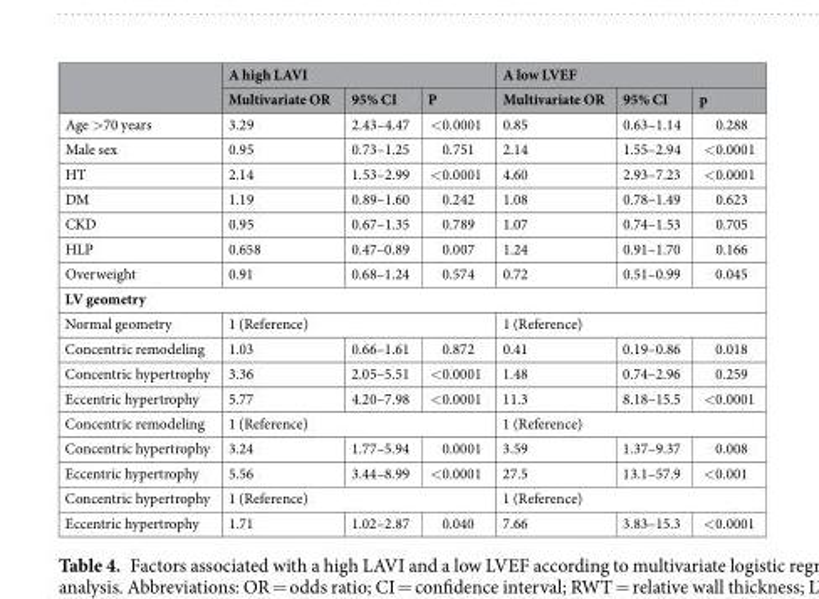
<table><thead><tr><td rowspan="2"></td><td colspan="3">A high LAVI</td><td colspan="3">A low LVEF</td></tr><tr><td>Multivariate OR</td><td>95% CI</td><td>P</td><td>Multivariate OR</td><td>95% CI</td><td>p</td></tr></thead><tbody><tr><td>Age &gt;70 years</td><td>3.29</td><td>2.43–4.47</td><td>&lt;0.0001</td><td>0.85</td><td>0.63–1.14</td><td>0.288</td></tr><tr><td>Male sex</td><td>0.95</td><td>0.73–1.25</td><td>0.751</td><td>2.14</td><td>1.55–2.94</td><td>&lt;0.0001</td></tr><tr><td>HT</td><td>2.14</td><td>1.53–2.99</td><td>&lt;0.0001</td><td>4.60</td><td>2.93–7.23</td><td>&lt;0.0001</td></tr><tr><td>DM</td><td>1.19</td><td>0.89–1.60</td><td>0.242</td><td>1.08</td><td>0.78–1.49</td><td>0.623</td></tr><tr><td>CKD</td><td>0.95</td><td>0.67–1.35</td><td>0.789</td><td>1.07</td><td>0.74–1.53</td><td>0.705</td></tr><tr><td>HLP</td><td>0.658</td><td>0.47–0.89</td><td>0.007</td><td>1.24</td><td>0.91–1.70</td><td>0.166</td></tr><tr><td>Overweight</td><td>0.91</td><td>0.68–1.24</td><td>0.574</td><td>0.72</td><td>0.51–0.99</td><td>0.045</td></tr><tr><td colspan="7">LV geometry</td></tr><tr><td>Normal geometry</td><td colspan="3">1 (Reference)</td><td colspan="3">1 (Reference)</td></tr><tr><td>Concentric remodeling</td><td>1.03</td><td>0.66–1.61</td><td>0.872</td><td>0.41</td><td>0.19–0.86</td><td>0.018</td></tr><tr><td>Concentric hypertrophy</td><td>3.36</td><td>2.05–5.51</td><td>&lt;0.0001</td><td>1.48</td><td>0.74–2.96</td><td>0.259</td></tr><tr><td>Eccentric hypertrophy</td><td>5.77</td><td>4.20–7.98</td><td>&lt;0.0001</td><td>11.3</td><td>8.18–15.5</td><td>&lt;0.0001</td></tr><tr><td>Concentric remodeling</td><td colspan="3">1 (Reference)</td><td colspan="3">1 (Reference)</td></tr><tr><td>Concentric hypertrophy</td><td>3.24</td><td>1.77–5.94</td><td>0.0001</td><td>3.59</td><td>1.37–9.37</td><td>0.008</td></tr><tr><td>Eccentric hypertrophy</td><td>5.56</td><td>3.44–8.99</td><td>&lt;0.0001</td><td>27.5</td><td>13.1–57.9</td><td>&lt;0.001</td></tr><tr><td>Concentric hypertrophy</td><td colspan="3">1 (Reference)</td><td colspan="3">1 (Reference)</td></tr><tr><td>Eccentric hypertrophy</td><td>1.71</td><td>1.02–2.87</td><td>0.040</td><td>7.66</td><td>3.83–15.3</td><td>&lt;0.0001</td></tr></tbody></table>